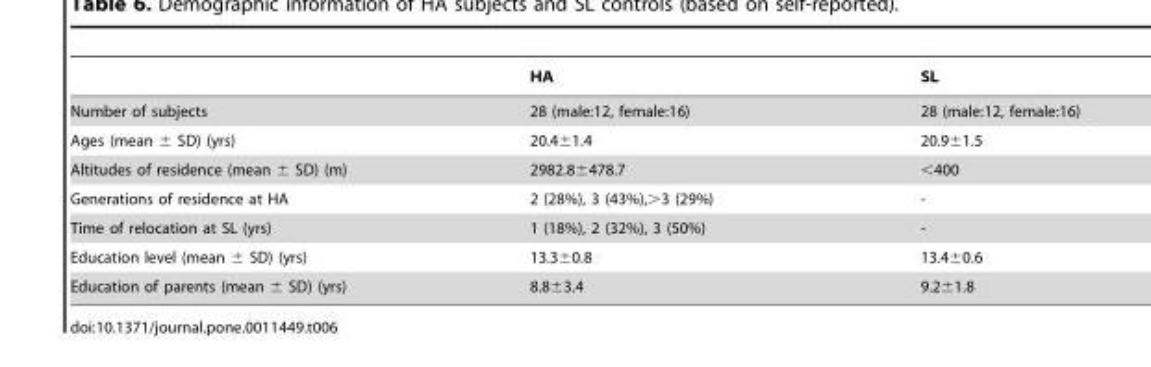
<table><thead><tr><td></td><td>HA</td><td>SL</td></tr></thead><tbody><tr><td>Number of subjects</td><td>28 (male:12, female:16)</td><td>28 (male:12, female:16)</td></tr><tr><td>Ages (mean ± SD) (yrs)</td><td>20.4±1.4</td><td>20.9±1.5</td></tr><tr><td>Altitudes of residence (mean ± SD) (m)</td><td>2982.8±478.7</td><td>&lt;400</td></tr><tr><td>Generations of residence at HA</td><td>2 (28%), 3 (43%),&gt;3 (29%)</td><td>-</td></tr><tr><td>Time of relocation at SL (yrs)</td><td>1 (18%), 2 (32%), 3 (50%)</td><td>-</td></tr><tr><td>Education level (mean ± SD) (yrs)</td><td>13.3±0.8</td><td>13.4±0.6</td></tr><tr><td>Education of parents (mean ± SD) (yrs)</td><td>8.8±3.4</td><td>9.2±1.8</td></tr></tbody></table>